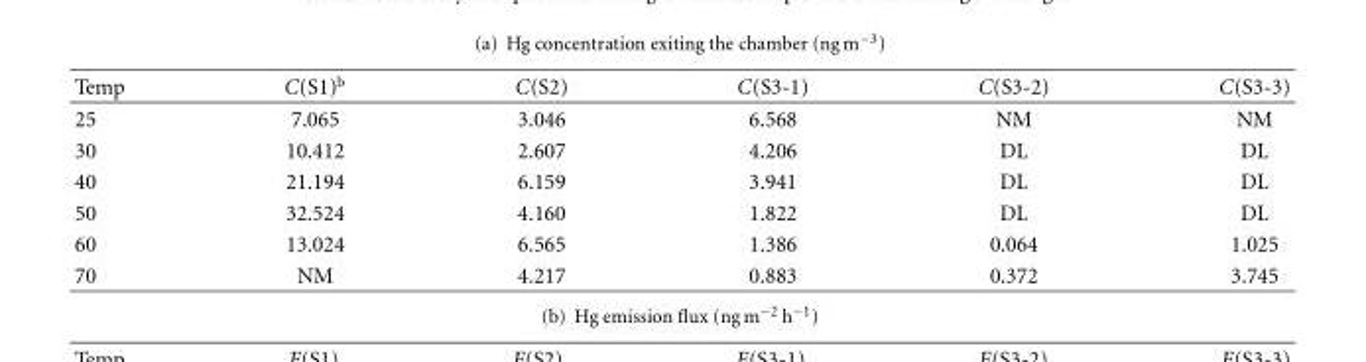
<table><thead><tr><td>Temp</td><td>C(S1)<sup>b</sup></td><td>C(S2)</td><td>C(S3-1)</td><td>C(S3-2)</td><td>C(S3-3)</td></tr></thead><tbody><tr><td>25</td><td>7.065</td><td>3.046</td><td>6.568</td><td>NM</td><td>NM</td></tr><tr><td>30</td><td>10.412</td><td>2.607</td><td>4.206</td><td>DL</td><td>DL</td></tr><tr><td>40</td><td>21.194</td><td>6.159</td><td>3.941</td><td>DL</td><td>DL</td></tr><tr><td>50</td><td>32.524</td><td>4.160</td><td>1.822</td><td>DL</td><td>DL</td></tr><tr><td>60</td><td>13.024</td><td>6.565</td><td>1.386</td><td>0.064</td><td>1.025</td></tr><tr><td>70</td><td>NM</td><td>4.217</td><td>0.883</td><td>0.372</td><td>3.745</td></tr></tbody></table>